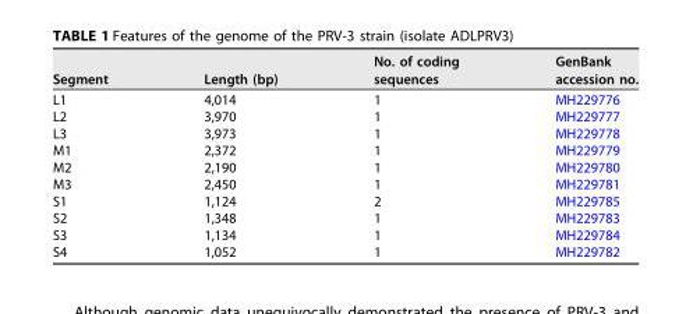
<table><thead><tr><td>Segment</td><td>Length (bp)</td><td>No. of coding sequences</td><td>GenBank accession no.</td></tr></thead><tbody><tr><td>L1</td><td>4,014</td><td>1</td><td>MH229776</td></tr><tr><td>L2</td><td>3,970</td><td>1</td><td>MH229777</td></tr><tr><td>L3</td><td>3,973</td><td>1</td><td>MH229778</td></tr><tr><td>M1</td><td>2,372</td><td>1</td><td>MH229779</td></tr><tr><td>M2</td><td>2,190</td><td>1</td><td>MH229780</td></tr><tr><td>M3</td><td>2,450</td><td>1</td><td>MH229781</td></tr><tr><td>S1</td><td>1,124</td><td>2</td><td>MH229785</td></tr><tr><td>S2</td><td>1,348</td><td>1</td><td>MH229783</td></tr><tr><td>S3</td><td>1,134</td><td>1</td><td>MH229784</td></tr><tr><td>S4</td><td>1,052</td><td>1</td><td>MH229782</td></tr></tbody></table>